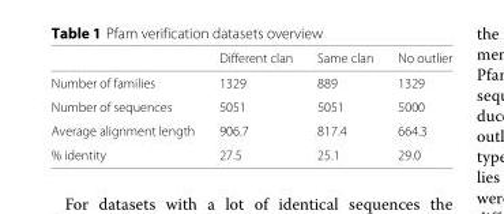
<table><thead><tr><td></td><td>Different clan</td><td>Same clan</td><td>No outlier</td></tr></thead><tbody><tr><td>Number of families</td><td>1329</td><td>889</td><td>1329</td></tr><tr><td>Number of sequences</td><td>5051</td><td>5051</td><td>5000</td></tr><tr><td>Average alignment length</td><td>906.7</td><td>817.4</td><td>664.3</td></tr><tr><td>% identity</td><td>27.5</td><td>25.1</td><td>29.0</td></tr></tbody></table>